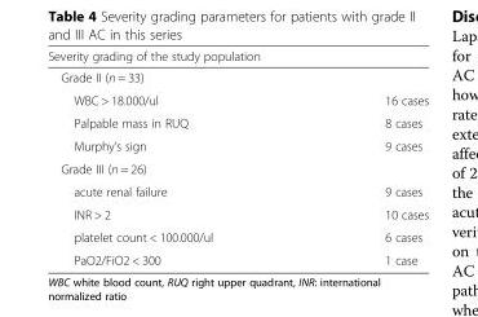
<table><thead><tr><td rowspan="2" colspan="2">Severity grading of the study population Grade II (n = 33)</td></tr><tr></tr><tr><td>WBC &gt; 18.000/ul</td><td>16 cases</td></tr></thead><tbody><tr><td>Palpable mass in RUQ</td><td>8 cases</td></tr><tr><td>Murphy’s sign</td><td>9 cases</td></tr><tr><td colspan="2">Grade III (n = 26)</td></tr><tr><td>acute renal failure</td><td>9 cases</td></tr><tr><td>INR &gt; 2</td><td>10 cases</td></tr><tr><td>platelet count &lt; 100.000/ul</td><td>6 cases</td></tr><tr><td>PaO2/FiO2 &lt; 300</td><td>1 case</td></tr></tbody></table>